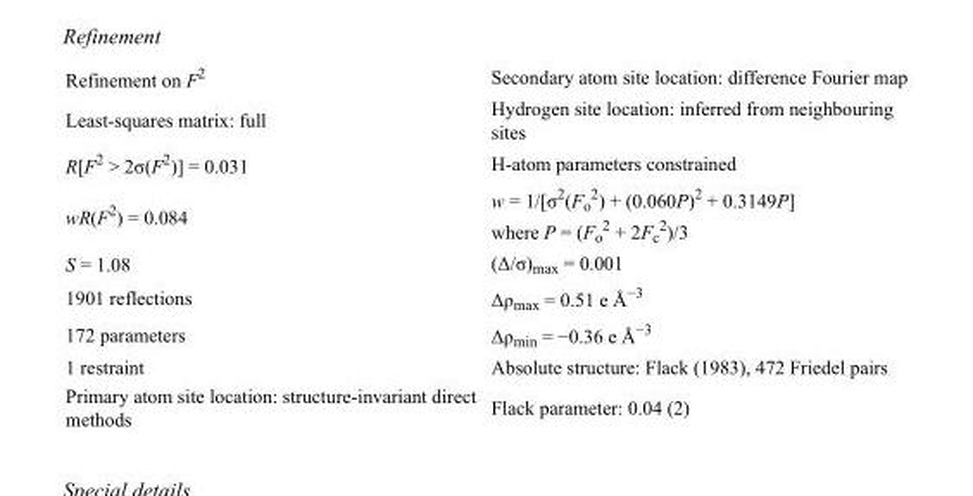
<table><tbody><tr><td>Refinement on F<sup>2</sup></td><td>Secondary atom site location: difference Fourier map</td></tr><tr><td>Least-squares matrix: full</td><td>Hydrogen site location: inferred from neighbouring sites</td></tr><tr><td>R[F<sup>2</sup> &gt; 2σ(F<sup>2</sup>)] = 0.031</td><td>H-atom parameters constrained</td></tr><tr><td>wR(F<sup>2</sup>) = 0.084</td><td>w = 1/[σ<sup>2</sup>(F<sub>o</sub> <sup>2</sup>) + (0.060P)<sup>2</sup> + 0.3149P] where P = (F<sub>o</sub> <sup>2</sup> + 2F<sub>c</sub> <sup>2</sup>)/3</td></tr><tr><td>S = 1.08</td><td>(Δ/σ)<sub>max</sub> = 0.001</td></tr><tr><td>1901 reflections</td><td>Δρ<sub>max</sub> = 0.51 e Å<sup>−3</sup></td></tr><tr><td>172 parameters</td><td>Δρ<sub>min</sub> = −0.36 e Å<sup>−3</sup></td></tr><tr><td>1 restraint</td><td>Absolute structure: Flack (1983), 472 Friedel pairs</td></tr><tr><td>Primary atom site location: structure-invariant direct methods</td><td>Flack parameter: 0.04 (2)</td></tr></tbody></table>